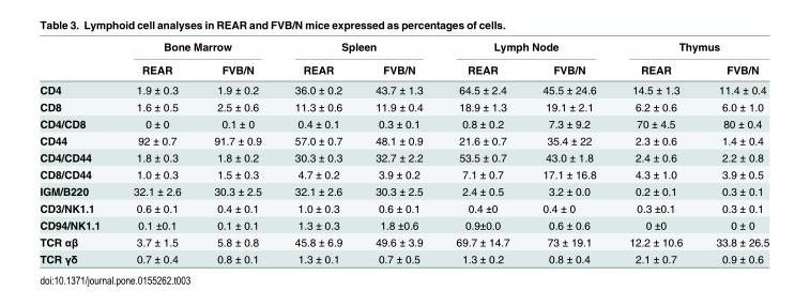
<table><thead><tr><td rowspan="2"></td><td colspan="2">Bone Marrow</td><td colspan="2">Spleen</td><td colspan="2">Lymph Node</td><td colspan="2">Thymus</td></tr><tr><td>REAR</td><td>FVB/N</td><td>REAR</td><td>FVB/N</td><td>REAR</td><td>FVB/N</td><td>REAR</td><td>FVB/N</td></tr></thead><tbody><tr><td>CD4</td><td>1.9 ± 0.3</td><td>1.9 ± 0.2</td><td>36.0 ± 0.2</td><td>43.7 ± 1.3</td><td>64.5 ± 2.4</td><td>45.5 ± 24.6</td><td>14.5 ± 1.3</td><td>11.4 ± 0.4</td></tr><tr><td>CD8</td><td>1.6 ± 0.5</td><td>2.5 ± 0.6</td><td>11.3 ± 0.6</td><td>11.9 ± 0.4</td><td>18.9 ± 1.3</td><td>19.1 ± 2.1</td><td>6.2 ± 0.6</td><td>6.0 ± 1.0</td></tr><tr><td>CD4/CD8</td><td>0 ± 0</td><td>0.1 ± 0</td><td>0.4 ± 0.1</td><td>0.3 ± 0.1</td><td>0.8 ± 0.2</td><td>7.3 ± 9.2</td><td>70 ± 4.5</td><td>80 ± 0.4</td></tr><tr><td>CD44</td><td>92 ± 0.7</td><td>91.7 ± 0.9</td><td>57.0 ± 0.7</td><td>48.1 ± 0.9</td><td>21.6 ± 0.7</td><td>35.4 ± 22</td><td>2.3 ± 0.6</td><td>1.4 ± 0.4</td></tr><tr><td>CD4/CD44</td><td>1.8 ± 0.3</td><td>1.8 ± 0.2</td><td>30.3 ± 0.3</td><td>32.7 ± 2.2</td><td>53.5 ± 0.7</td><td>43.0 ± 1.8</td><td>2.4 ± 0.6</td><td>2.2 ± 0.8</td></tr><tr><td>CD8/CD44</td><td>1.0 ± 0.3</td><td>1.5 ± 0.3</td><td>4.7 ± 0.2</td><td>3.9 ± 0.2</td><td>7.1 ± 0.7</td><td>17.1 ± 16.8</td><td>4.3 ± 1.0</td><td>3.9 ± 0.5</td></tr><tr><td>IGM/B220</td><td>32.1 ± 2.6</td><td>30.3 ± 2.5</td><td>32.1 ± 2.6</td><td>30.3 ± 2.5</td><td>2.4 ± 0.5</td><td>3.2 ± 0.0</td><td>0.2 ± 0.1</td><td>0.3 ± 0.1</td></tr><tr><td>CD3/NK1.1</td><td>0.6 ± 0.1</td><td>0.4 ± 0.1</td><td>1.0 ± 0.3</td><td>0.6 ± 0.1</td><td>0.4 ±0</td><td>0.4 ± 0</td><td>0.3 ±0.1</td><td>0.3 ± 0.1</td></tr><tr><td>CD94/NK1.1</td><td>0.1 ±0.1</td><td>0.1 ± 0.1</td><td>1.3 ± 0.3</td><td>1.8 ±0.6</td><td>0.9±0.0</td><td>0.6 ± 0.6</td><td>0 ±0</td><td>0 ± 0</td></tr><tr><td>TCR αβ</td><td>3.7 ± 1.5</td><td>5.8 ± 0.8</td><td>45.8 ± 6.9</td><td>49.6 ± 3.9</td><td>69.7 ± 14.7</td><td>73 ± 19.1</td><td>12.2 ± 10.6</td><td>33.8 ± 26.5</td></tr><tr><td>TCR γδ</td><td>0.7 ± 0.4</td><td>0.8 ± 0.1</td><td>1.3 ± 0.1</td><td>0.7 ± 0.5</td><td>1.3 ± 0.2</td><td>0.8 ± 0.4</td><td>2.1 ± 0.7</td><td>0.9 ± 0.6</td></tr></tbody></table>